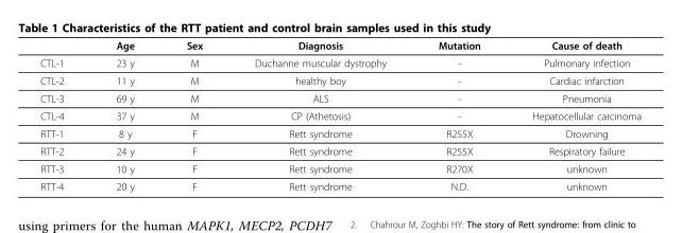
<table><thead><tr><td></td><td>Age</td><td>Sex</td><td>Diagnosis</td><td>Mutation</td><td>Cause of death</td></tr></thead><tbody><tr><td>CTL-1</td><td>23 y</td><td>M</td><td>Duchanne muscular dystrophy</td><td>-</td><td>Pulmonary infection</td></tr><tr><td>CTL-2</td><td>11 y</td><td>M</td><td>healthy boy</td><td>-</td><td>Cardiac infarction</td></tr><tr><td>CTL-3</td><td>69 y</td><td>M</td><td>ALS</td><td>-</td><td>Pneumonia</td></tr><tr><td>CTL-4</td><td>37 y</td><td>M</td><td>CP (Athetosis)</td><td>-</td><td>Hepatocellular carcinoma</td></tr><tr><td>RTT-1</td><td>8 y</td><td>F</td><td>Rett syndrome</td><td>R255X</td><td>Drowning</td></tr><tr><td>RTT-2</td><td>24 y</td><td>F</td><td>Rett syndrome</td><td>R255X</td><td>Respiratory failure</td></tr><tr><td>RTT-3</td><td>10 y</td><td>F</td><td>Rett syndrome</td><td>R270X</td><td>unknown</td></tr><tr><td>RTT-4</td><td>20 y</td><td>F</td><td>Rett syndrome</td><td>N.D.</td><td>unknown</td></tr></tbody></table>